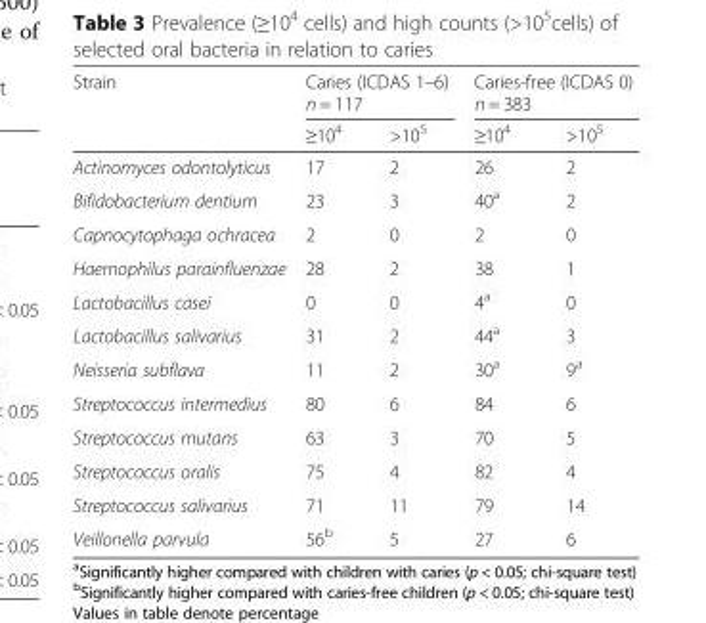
<table><thead><tr><td rowspan="3">Strain</td><td rowspan="2" colspan="2">Caries (ICDAS 1–6) n = 117</td><td rowspan="2" colspan="2">Caries-free (ICDAS 0) n = 383</td></tr><tr></tr><tr><td>≥10<sup>4</sup></td><td>&gt;10<sup>5</sup></td><td>≥10<sup>4</sup></td><td>&gt;10<sup>5</sup></td></tr></thead><tbody><tr><td>Actinomyces odontolyticus</td><td>17</td><td>2</td><td>26</td><td>2</td></tr><tr><td>Bifidobacterium dentium</td><td>23</td><td>3</td><td>40<sup>a</sup></td><td>2</td></tr><tr><td>Capnocytophaga ochracea</td><td>2</td><td>0</td><td>2</td><td>0</td></tr><tr><td>Haemophilus parainfluenzae</td><td>28</td><td>2</td><td>38</td><td>1</td></tr><tr><td>Lactobacillus casei</td><td>0</td><td>0</td><td>4<sup>a</sup></td><td>0</td></tr><tr><td>Lactobacillus salivarius</td><td>31</td><td>2</td><td>44<sup>a</sup></td><td>3</td></tr><tr><td>Neisseria subflava</td><td>11</td><td>2</td><td>30<sup>a</sup></td><td>9<sup>a</sup></td></tr><tr><td>Streptococcus intermedius</td><td>80</td><td>6</td><td>84</td><td>6</td></tr><tr><td>Streptococcus mutans</td><td>63</td><td>3</td><td>70</td><td>5</td></tr><tr><td>Streptococcus oralis</td><td>75</td><td>4</td><td>82</td><td>4</td></tr><tr><td>Streptococcus salivarius</td><td>71</td><td>11</td><td>79</td><td>14</td></tr><tr><td>Veillonella parvula</td><td>56<sup>b</sup></td><td>5</td><td>27</td><td>6</td></tr></tbody></table>